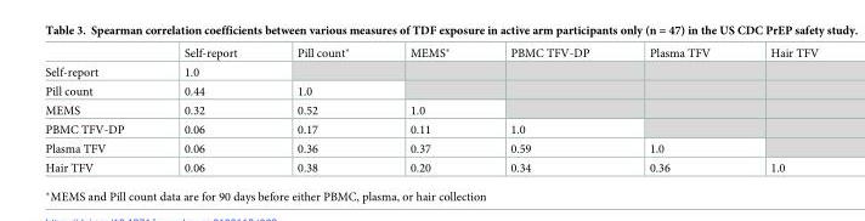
<table><thead><tr><td></td><td>Self-report</td><td>Pill count*</td><td>MEMS*</td><td>PBMC TFV-DP</td><td>Plasma TFV</td><td>Hair TFV</td></tr></thead><tbody><tr><td>Self-report</td><td>1.0</td><td></td><td></td><td></td><td></td><td></td></tr><tr><td>Pill count</td><td>0.44</td><td>1.0</td><td></td><td></td><td></td><td></td></tr><tr><td>MEMS</td><td>0.32</td><td>0.52</td><td>1.0</td><td></td><td></td><td></td></tr><tr><td>PBMC TFV-DP</td><td>0.06</td><td>0.17</td><td>0.11</td><td>1.0</td><td></td><td></td></tr><tr><td>Plasma TFV</td><td>0.06</td><td>0.36</td><td>0.37</td><td>0.59</td><td>1.0</td><td></td></tr><tr><td>Hair TFV</td><td>0.06</td><td>0.38</td><td>0.20</td><td>0.34</td><td>0.36</td><td>1.0</td></tr></tbody></table>